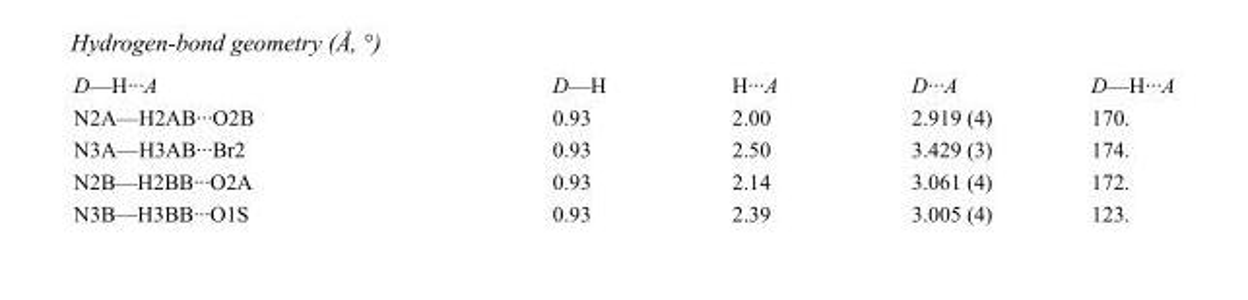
<table><tbody><tr><td>D—H···A</td><td>D—H</td><td>H···A</td><td>D···A</td><td>D—H···A</td></tr><tr><td>N2A—H2AB···O2B</td><td>0.93</td><td>2.00</td><td>2.919 (4)</td><td>170.</td></tr><tr><td>N3A—H3AB···Br2</td><td>0.93</td><td>2.50</td><td>3.429 (3)</td><td>174.</td></tr><tr><td>N2B—H2BB···O2A</td><td>0.93</td><td>2.14</td><td>3.061 (4)</td><td>172.</td></tr><tr><td>N3B—H3BB···O1S</td><td>0.93</td><td>2.39</td><td>3.005 (4)</td><td>123.</td></tr></tbody></table>